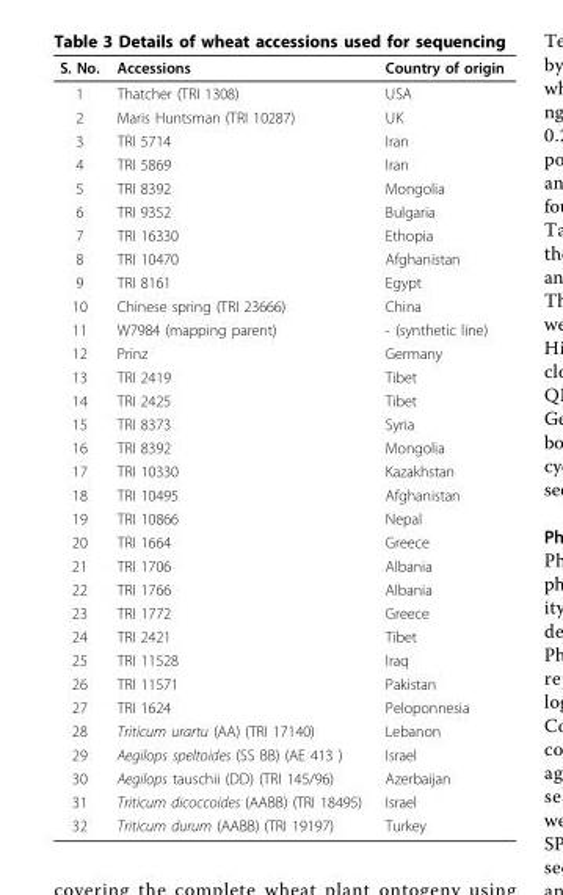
<table><thead><tr><td>S. No.</td><td>Accessions</td><td>Country of origin</td></tr></thead><tbody><tr><td>1</td><td>Thatcher (TRI 1308)</td><td>USA</td></tr><tr><td>2</td><td>Maris Huntsman (TRI 10287)</td><td>UK</td></tr><tr><td>3</td><td>TRI 5714</td><td>Iran</td></tr><tr><td>4</td><td>TRI 5869</td><td>Iran</td></tr><tr><td>5</td><td>TRI 8392</td><td>Mongolia</td></tr><tr><td>6</td><td>TRI 9352</td><td>Bulgaria</td></tr><tr><td>7</td><td>TRI 16330</td><td>Ethopia</td></tr><tr><td>8</td><td>TRI 10470</td><td>Afghanistan</td></tr><tr><td>9</td><td>TRI 8161</td><td>Egypt</td></tr><tr><td>10</td><td>Chinese spring (TRI 23666)</td><td>China</td></tr><tr><td>11</td><td>W7984 (mapping parent)</td><td>- (synthetic line)</td></tr><tr><td>12</td><td>Prinz</td><td>Germany</td></tr><tr><td>13</td><td>TRI 2419</td><td>Tibet</td></tr><tr><td>14</td><td>TRI 2425</td><td>Tibet</td></tr><tr><td>15</td><td>TRI 8373</td><td>Syria</td></tr><tr><td>16</td><td>TRI 8392</td><td>Mongolia</td></tr><tr><td>17</td><td>TRI 10330</td><td>Kazakhstan</td></tr><tr><td>18</td><td>TRI 10495</td><td>Afghanistan</td></tr><tr><td>19</td><td>TRI 10866</td><td>Nepal</td></tr><tr><td>20</td><td>TRI 1664</td><td>Greece</td></tr><tr><td>21</td><td>TRI 1706</td><td>Albania</td></tr><tr><td>22</td><td>TRI 1766</td><td>Albania</td></tr><tr><td>23</td><td>TRI 1772</td><td>Greece</td></tr><tr><td>24</td><td>TRI 2421</td><td>Tibet</td></tr><tr><td>25</td><td>TRI 11528</td><td>Iraq</td></tr><tr><td>26</td><td>TRI 11571</td><td>Pakistan</td></tr><tr><td>27</td><td>TRI 1624</td><td>Peloponnesia</td></tr><tr><td>28</td><td>Triticum urartu (AA) (TRI 17140)</td><td>Lebanon</td></tr><tr><td>29</td><td>Aegilops speltoides (SS BB) (AE 413 )</td><td>Israel</td></tr><tr><td>30</td><td>Aegilops tauschii (DD) (TRI 145/96)</td><td>Azerbaijan</td></tr><tr><td>31</td><td>Triticum dicoccoides (AABB) (TRI 18495)</td><td>Israel</td></tr><tr><td>32</td><td>Triticum durum (AABB) (TRI 19197)</td><td>Turkey</td></tr></tbody></table>